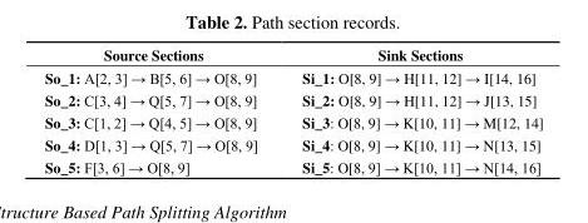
<table><thead><tr><td>Source Sections</td><td>Sink Sections</td></tr></thead><tbody><tr><td>So_1: A[2, 3] → B[5, 6] → O[8, 9]</td><td>Si_1: O[8, 9] → H[11, 12] → I[14, 16]</td></tr><tr><td>So_2: C[3, 4] → Q[5, 7] → O[8, 9]</td><td>Si_2: O[8, 9] → H[11, 12] → J[13, 15]</td></tr><tr><td>So_3: C[1, 2] → Q[4, 5] → O[8, 9]</td><td>Si_3: O[8, 9] → K[10, 11] → M[12, 14]</td></tr><tr><td>So_4: D[1, 3] → Q[5, 7] → O[8, 9]</td><td>Si_4: O[8, 9] → K[10, 11] → N[13, 15]</td></tr><tr><td>So_5: F[3, 6] → O[8, 9]</td><td>Si_5: O[8, 9] → K[10, 11] → N[14, 16]</td></tr></tbody></table>